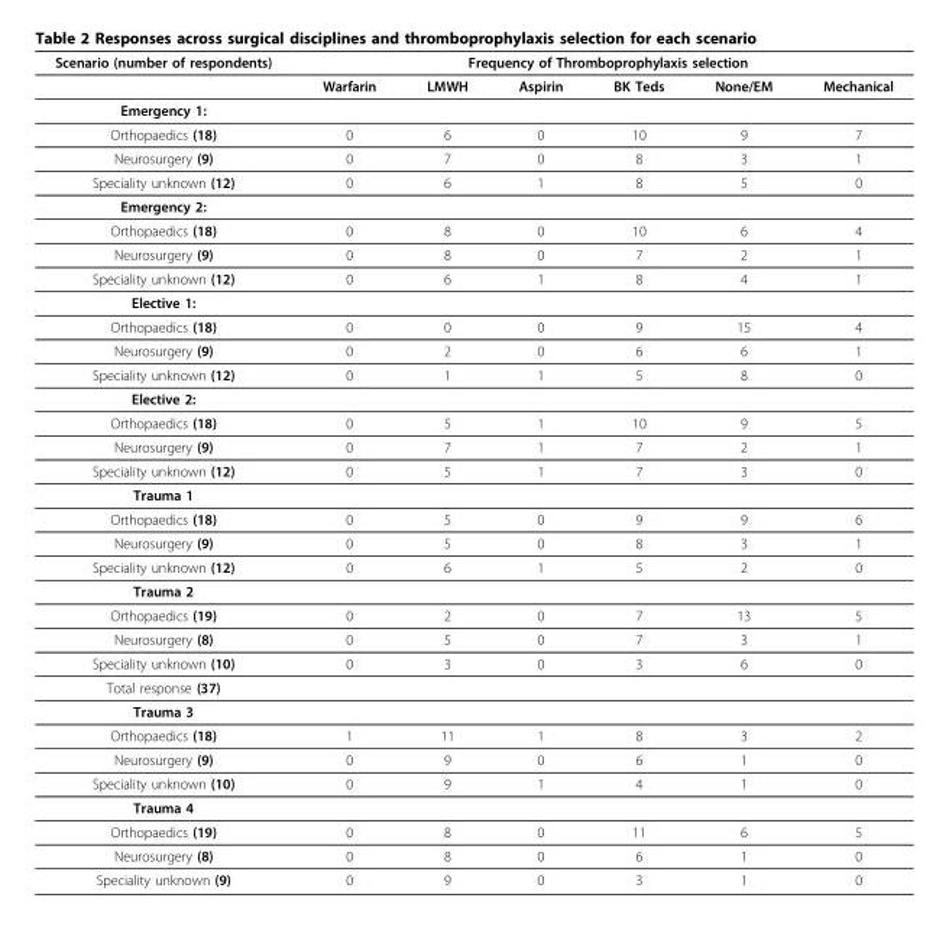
<table><thead><tr><td rowspan="2">Scenario (number of respondents)</td><td colspan="6">Frequency of Thromboprophylaxis selection</td></tr><tr><td>Warfarin</td><td>LMWH</td><td>Aspirin</td><td>BK Teds</td><td>None/EM</td><td>Mechanical</td></tr></thead><tbody><tr><td colspan="7">Emergency 1:</td></tr><tr><td>Orthopaedics (18)</td><td>0</td><td>6</td><td>0</td><td>10</td><td>9</td><td>7</td></tr><tr><td>Neurosurgery (9)</td><td>0</td><td>7</td><td>0</td><td>8</td><td>3</td><td>1</td></tr><tr><td>Speciality unknown (12)</td><td>0</td><td>6</td><td>1</td><td>8</td><td>5</td><td>0</td></tr><tr><td colspan="7">Emergency 2:</td></tr><tr><td>Orthopaedics (18)</td><td>0</td><td>8</td><td>0</td><td>10</td><td>6</td><td>4</td></tr><tr><td>Neurosurgery (9)</td><td>0</td><td>8</td><td>0</td><td>7</td><td>2</td><td>1</td></tr><tr><td>Speciality unknown (12)</td><td>0</td><td>6</td><td>1</td><td>8</td><td>4</td><td>1</td></tr><tr><td colspan="7">Elective 1:</td></tr><tr><td>Orthopaedics (18)</td><td>0</td><td>0</td><td>0</td><td>9</td><td>15</td><td>4</td></tr><tr><td>Neurosurgery (9)</td><td>0</td><td>2</td><td>0</td><td>6</td><td>6</td><td>1</td></tr><tr><td>Speciality unknown (12)</td><td>0</td><td>1</td><td>1</td><td>5</td><td>8</td><td>0</td></tr><tr><td colspan="7">Elective 2:</td></tr><tr><td>Orthopaedics (18)</td><td>0</td><td>5</td><td>1</td><td>10</td><td>9</td><td>5</td></tr><tr><td>Neurosurgery (9)</td><td>0</td><td>7</td><td>1</td><td>7</td><td>2</td><td>1</td></tr><tr><td>Speciality unknown (12)</td><td>0</td><td>5</td><td>1</td><td>7</td><td>3</td><td>0</td></tr><tr><td colspan="7">Trauma 1</td></tr><tr><td>Orthopaedics (18)</td><td>0</td><td>5</td><td>0</td><td>9</td><td>9</td><td>6</td></tr><tr><td>Neurosurgery (9)</td><td>0</td><td>5</td><td>0</td><td>8</td><td>3</td><td>1</td></tr><tr><td>Speciality unknown (12)</td><td>0</td><td>6</td><td>1</td><td>5</td><td>2</td><td>0</td></tr><tr><td colspan="7">Trauma 2</td></tr><tr><td>Orthopaedics (19)</td><td>0</td><td>2</td><td>0</td><td>7</td><td>13</td><td>5</td></tr><tr><td>Neurosurgery (8)</td><td>0</td><td>5</td><td>0</td><td>7</td><td>3</td><td>1</td></tr><tr><td>Speciality unknown (10)</td><td>0</td><td>3</td><td>0</td><td>3</td><td>6</td><td>0</td></tr><tr><td colspan="7">Total response (37)</td></tr><tr><td colspan="7">Trauma 3</td></tr><tr><td>Orthopaedics (18)</td><td>1</td><td>11</td><td>1</td><td>8</td><td>3</td><td>2</td></tr><tr><td>Neurosurgery (9)</td><td>0</td><td>9</td><td>0</td><td>6</td><td>1</td><td>0</td></tr><tr><td>Speciality unknown (10)</td><td>0</td><td>9</td><td>1</td><td>4</td><td>1</td><td>0</td></tr><tr><td colspan="7">Trauma 4</td></tr><tr><td>Orthopaedics (19)</td><td>0</td><td>8</td><td>0</td><td>11</td><td>6</td><td>5</td></tr><tr><td>Neurosurgery (8)</td><td>0</td><td>8</td><td>0</td><td>6</td><td>1</td><td>0</td></tr><tr><td>Speciality unknown (9)</td><td>0</td><td>9</td><td>0</td><td>3</td><td>1</td><td>0</td></tr></tbody></table>